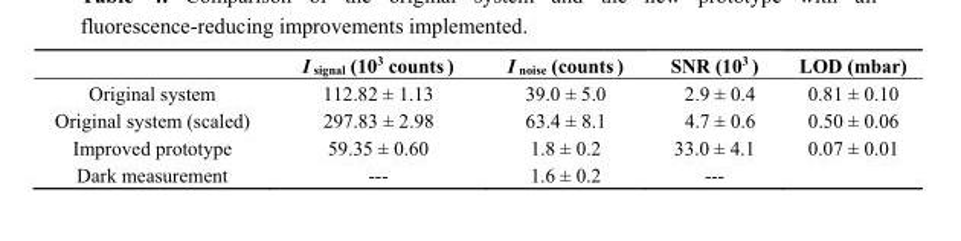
<table><thead><tr><td></td><td>I <sub>signal</sub> (10<sup>3</sup> counts )</td><td>I <sub>noise</sub> (counts )</td><td>SNR (10<sup>3</sup> )</td><td>LOD (mbar)</td></tr></thead><tbody><tr><td>Original system</td><td>112.82 ± 1.13</td><td>39.0 ± 5.0</td><td>2.9 ± 0.4</td><td>0.81 ± 0.10</td></tr><tr><td>Original system (scaled)</td><td>297.83 ± 2.98</td><td>63.4 ± 8.1</td><td>4.7 ± 0.6</td><td>0.50 ± 0.06</td></tr><tr><td>Improved prototype</td><td>59.35 ± 0.60</td><td>1.8 ± 0.2</td><td>33.0 ± 4.1</td><td>0.07 ± 0.01</td></tr><tr><td>Dark measurement</td><td>---</td><td>1.6 ± 0.2</td><td>---</td><td></td></tr></tbody></table>